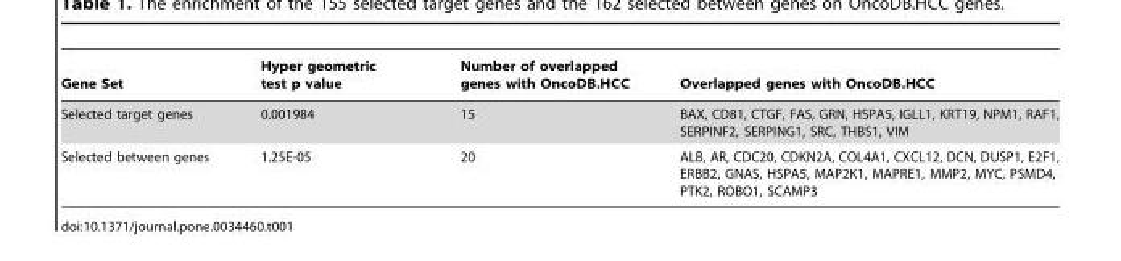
<table><thead><tr><td>Gene Set</td><td>Hyper geometric test p value</td><td>Number of overlapped genes with OncoDB.HCC</td><td>Overlapped genes with OncoDB.HCC</td></tr></thead><tbody><tr><td>Selected target genes</td><td>0.001984</td><td>15</td><td>BAX, CD81, CTGF, FAS, GRN, HSPA5, IGLL1, KRT19, NPM1, RAF1, SERPINF2, SERPING1, SRC, THBS1, VIM</td></tr><tr><td>Selected between genes</td><td>1.25E-05</td><td>20</td><td>ALB, AR, CDC20, CDKN2A, COL4A1, CXCL12, DCN, DUSP1, E2F1, ERBB2, GNAS, HSPA5, MAP2K1, MAPRE1, MMP2, MYC, PSMD4, PTK2, ROBO1, SCAMP3</td></tr></tbody></table>